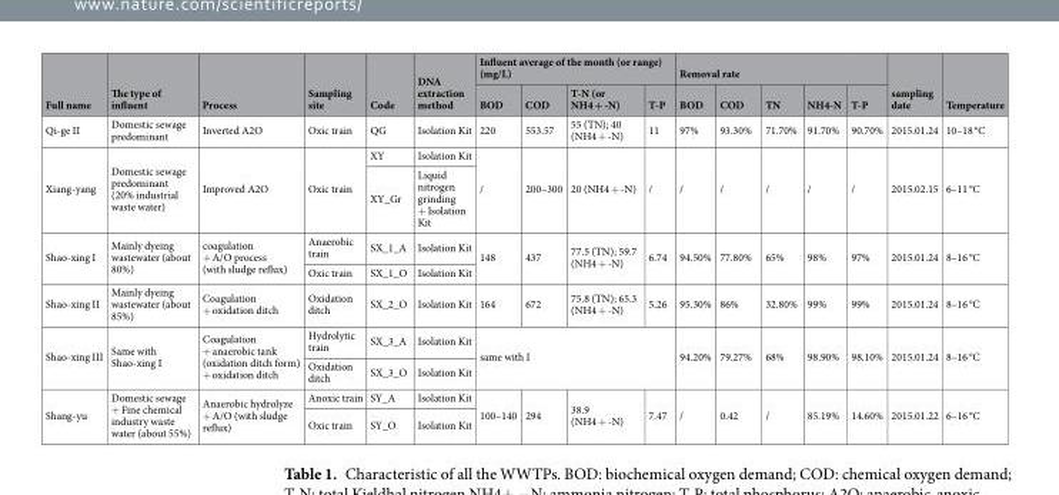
<table><thead><tr><td rowspan="2">Full name</td><td rowspan="2">The type of influent</td><td rowspan="2">Process</td><td rowspan="2">Sampling site</td><td rowspan="2">Code</td><td rowspan="2">DNA extraction method</td><td colspan="4">Influent average of the month (or range) (mg/L)</td><td colspan="5">Removal rate</td><td rowspan="2">sampling date</td><td rowspan="2">Temperature</td></tr><tr><td>BOD</td><td>COD</td><td>T-N (or NH4 + -N)</td><td>T-P</td><td>BOD</td><td>COD</td><td>TN</td><td>NH4-N</td><td>T-P</td></tr></thead><tbody><tr><td>Qi-ge II</td><td>Domestic sewage predominant</td><td>Inverted A2O</td><td>Oxic train</td><td>QG</td><td>Isolation Kit</td><td>220</td><td>553.57</td><td>55 (TN); 40 (NH4 + -N)</td><td>11</td><td>97%</td><td>93.30%</td><td>71.70%</td><td>91.70%</td><td>90.70%</td><td>2015.01.24</td><td>10–18 °C</td></tr><tr><td rowspan="2">Xiang-yang</td><td rowspan="2">Domestic sewage predominant (20% industrial waste water)</td><td rowspan="2">Improved A2O</td><td rowspan="2">Oxic train</td><td>XY</td><td>Isolation Kit</td><td rowspan="2">/</td><td rowspan="2">200–300</td><td rowspan="2">20 (NH4 + -N)</td><td rowspan="2">/</td><td rowspan="2">/</td><td rowspan="2">/</td><td rowspan="2">/</td><td rowspan="2">/</td><td rowspan="2">/</td><td rowspan="2">2015.02.15</td><td rowspan="2">6–11 °C</td></tr><tr><td>XY_Gr</td><td>Liquid nitrogen grinding + Isolation Kit</td></tr><tr><td rowspan="2">Shao-xing I</td><td rowspan="2">Mainly dyeing wastewater (about 80%)</td><td rowspan="2">coagulation + A/O process (with sludge reflux)</td><td>Anaerobic train</td><td>SX_1_A</td><td>Isolation Kit</td><td rowspan="2">148</td><td rowspan="2">437</td><td rowspan="2">77.5 (TN); 59.7 (NH4 + -N)</td><td rowspan="2">6.74</td><td rowspan="2">94.50%</td><td rowspan="2">77.80%</td><td rowspan="2">65%</td><td rowspan="2">98%</td><td rowspan="2">97%</td><td rowspan="2">2015.01.24</td><td rowspan="2">8–16 °C</td></tr><tr><td>Oxic train</td><td>SX_1_O</td><td>Isolation Kit</td></tr><tr><td>Shao-xing II</td><td>Mainly dyeing wastewater (about 85%)</td><td>Coagulation + oxidation ditch</td><td>Oxidation ditch</td><td>SX_2_O</td><td>Isolation Kit</td><td>164</td><td>672</td><td>75.8 (TN); 65.3 (NH4 + -N)</td><td>5.26</td><td>95.30%</td><td>86%</td><td>32.80%</td><td>99%</td><td>99%</td><td>2015.01.24</td><td>8–16 °C</td></tr><tr><td rowspan="2">Shao-xing III</td><td rowspan="2">Same with Shao-xing I</td><td rowspan="2">Coagulation + anaerobic tank (oxidation ditch form) + oxidation ditch</td><td>Hydrolytic train</td><td>SX_3_A</td><td>Isolation Kit</td><td rowspan="2" colspan="4">same with I</td><td rowspan="2">94.20%</td><td rowspan="2">79.27%</td><td rowspan="2">68%</td><td rowspan="2">98.90%</td><td rowspan="2">98.10%</td><td rowspan="2">2015.01.24</td><td rowspan="2">8–16 °C</td></tr><tr><td>Oxidation ditch</td><td>SX_3_O</td><td>Isolation Kit</td></tr><tr><td rowspan="2">Shang-yu</td><td rowspan="2">Domestic sewage + Fine chemical industry waste water (about 55%)</td><td rowspan="2">Anaerobic hydrolyze + A/O (with sludge reflux)</td><td>Anoxic train</td><td>SY_A</td><td>Isolation Kit</td><td rowspan="2">100–140</td><td rowspan="2">294</td><td rowspan="2">38.9 (NH4 + -N)</td><td rowspan="2">7.47</td><td rowspan="2">/</td><td rowspan="2">0.42</td><td rowspan="2">/</td><td rowspan="2">85.19%</td><td rowspan="2">14.60%</td><td rowspan="2">2015.01.22</td><td rowspan="2">6–16 °C</td></tr><tr><td>Oxic train</td><td>SY_O</td><td>Isolation Kit</td></tr></tbody></table>